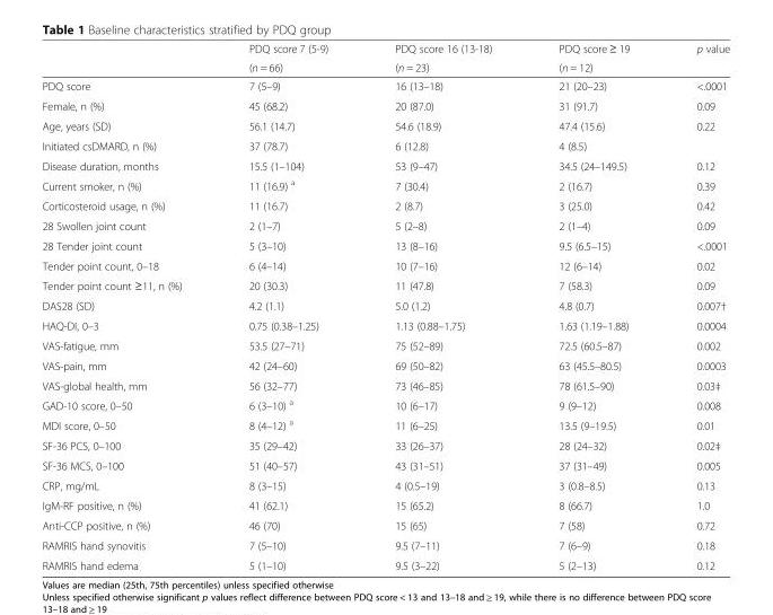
<table><thead><tr><td rowspan="2"></td><td rowspan="2">PDQ score 7 (5-9) (n = 66)</td><td rowspan="2">PDQ score 16 (13-18) (n = 23)</td><td rowspan="2">PDQ score ≥ 19 (n = 12)</td><td rowspan="2">p value</td></tr><tr></tr></thead><tbody><tr><td>PDQ score</td><td>7 (5–9)</td><td>16 (13–18)</td><td>21 (20–23)</td><td>&lt;.0001</td></tr><tr><td>Female, n (%)</td><td>45 (68.2)</td><td>20 (87.0)</td><td>31 (91.7)</td><td>0.09</td></tr><tr><td>Age, years (SD)</td><td>56.1 (14.7)</td><td>54.6 (18.9)</td><td>47.4 (15.6)</td><td>0.22</td></tr><tr><td>Initiated csDMARD, n (%)</td><td>37 (78.7)</td><td>6 (12.8)</td><td>4 (8.5)</td><td></td></tr><tr><td>Disease duration, months</td><td>15.5 (1–104)</td><td>53 (9–47)</td><td>34.5 (24–149.5)</td><td>0.12</td></tr><tr><td>Current smoker, n (%)</td><td>11 (16.9) <sup>a</sup></td><td>7 (30.4)</td><td>2 (16.7)</td><td>0.39</td></tr><tr><td>Corticosteroid usage, n (%)</td><td>11 (16.7)</td><td>2 (8.7)</td><td>3 (25.0)</td><td>0.42</td></tr><tr><td>28 Swollen joint count</td><td>2 (1–7)</td><td>5 (2–8)</td><td>2 (1–4)</td><td>0.09</td></tr><tr><td>28 Tender joint count</td><td>5 (3–10)</td><td>13 (8–16)</td><td>9.5 (6.5–15)</td><td>&lt;.0001</td></tr><tr><td>Tender point count, 0–18</td><td>6 (4–14)</td><td>10 (7–16)</td><td>12 (6–14)</td><td>0.02</td></tr><tr><td>Tender point count ≥11, n (%)</td><td>20 (30.3)</td><td>11 (47.8)</td><td>7 (58.3)</td><td>0.09</td></tr><tr><td>DAS28 (SD)</td><td>4.2 (1.1)</td><td>5.0 (1.2)</td><td>4.8 (0.7)</td><td>0.007†</td></tr><tr><td>HAQ-DI, 0–3</td><td>0.75 (0.38–1.25)</td><td>1.13 (0.88–1.75)</td><td>1.63 (1.19–1.88)</td><td>0.0004</td></tr><tr><td>VAS-fatigue, mm</td><td>53.5 (27–71)</td><td>75 (52–89)</td><td>72.5 (60.5–87)</td><td>0.002</td></tr><tr><td>VAS-pain, mm</td><td>42 (24–60)</td><td>69 (50–82)</td><td>63 (45.5–80.5)</td><td>0.0003</td></tr><tr><td>VAS-global health, mm</td><td>56 (32–77)</td><td>73 (46–85)</td><td>78 (61.5–90)</td><td>0.03‡</td></tr><tr><td>GAD-10 score, 0–50</td><td>6 (3–10) <sup>a</sup></td><td>10 (6–17)</td><td>9 (9–12)</td><td>0.008</td></tr><tr><td>MDI score, 0–50</td><td>8 (4–12) <sup>a</sup></td><td>11 (6–25)</td><td>13.5 (9–19.5)</td><td>0.01</td></tr><tr><td>SF-36 PCS, 0–100</td><td>35 (29–42)</td><td>33 (26–37)</td><td>28 (24–32)</td><td>0.02‡</td></tr><tr><td>SF-36 MCS, 0–100</td><td>51 (40–57)</td><td>43 (31–51)</td><td>37 (31–49)</td><td>0.005</td></tr><tr><td>CRP, mg/mL</td><td>8 (3–15)</td><td>4 (0.5–19)</td><td>3 (0.8–8.5)</td><td>0.13</td></tr><tr><td>IgM-RF positive, n (%)</td><td>41 (62.1)</td><td>15 (65.2)</td><td>8 (66.7)</td><td>1.0</td></tr><tr><td>Anti-CCP positive, n (%)</td><td>46 (70)</td><td>15 (65)</td><td>7 (58)</td><td>0.72</td></tr><tr><td>RAMRIS hand synovitis</td><td>7 (5–10)</td><td>9.5 (7–11)</td><td>7 (6–9)</td><td>0.18</td></tr><tr><td>RAMRIS hand edema</td><td>5 (1–10)</td><td>9.5 (3–22)</td><td>5 (2–13)</td><td>0.12</td></tr></tbody></table>